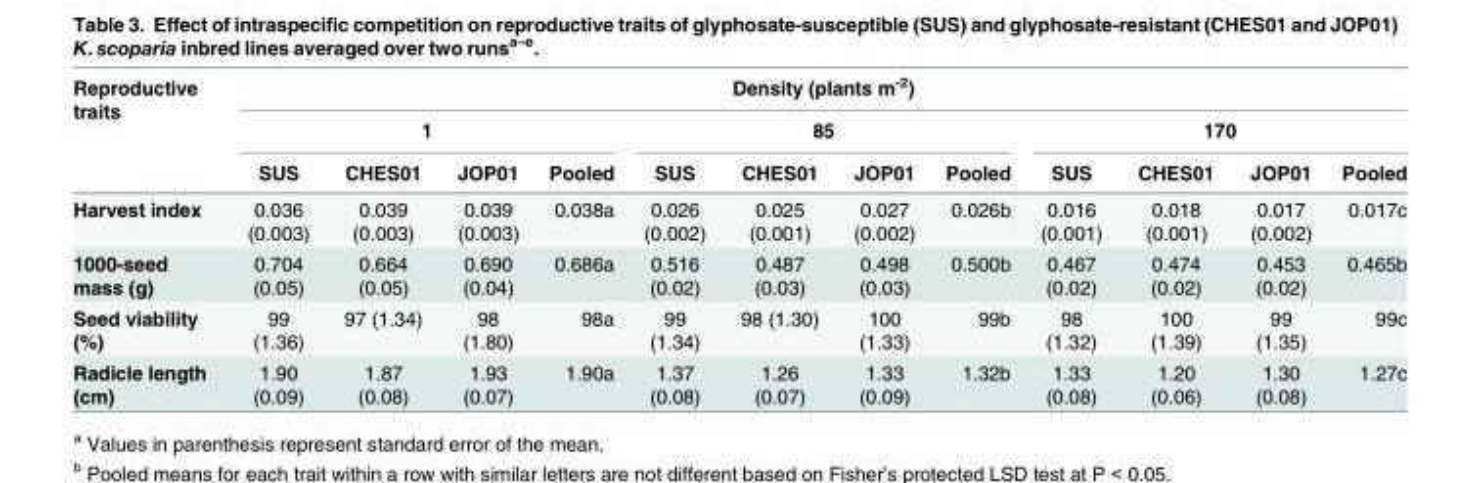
<table><thead><tr><td rowspan="3">Reproductive traits</td><td colspan="12">Density (plants m<sup>-2</sup>)</td></tr><tr><td colspan="4">1</td><td colspan="4">85</td><td colspan="4">170</td></tr><tr><td>SUS</td><td>CHES01</td><td>JOP01</td><td>Pooled</td><td>SUS</td><td>CHES01</td><td>JOP01</td><td>Pooled</td><td>SUS</td><td>CHES01</td><td>JOP01</td><td>Pooled</td></tr></thead><tbody><tr><td>Harvest index</td><td>0.036 (0.003)</td><td>0.039 (0.003)</td><td>0.039 (0.003)</td><td>0.038a</td><td>0.026 (0.002)</td><td>0.025 (0.001)</td><td>0.027 (0.002)</td><td>0.026b</td><td>0.016 (0.001)</td><td>0.018 (0.001)</td><td>0.017 (0.002)</td><td>0.017c</td></tr><tr><td>1000-seed mass (g)</td><td>0.704 (0.05)</td><td>0.664 (0.05)</td><td>0.690 (0.04)</td><td>0.686a</td><td>0.516 (0.02)</td><td>0.487 (0.03)</td><td>0.498 (0.03)</td><td>0.500b</td><td>0.467 (0.02)</td><td>0.474 (0.02)</td><td>0.453 (0.02)</td><td>0.465b</td></tr><tr><td>Seed viability (%)</td><td>99 (1.36)</td><td>97 (1.34)</td><td>98 (1.80)</td><td>98a</td><td>99 (1.34)</td><td>98 (1.30)</td><td>100 (1.33)</td><td>99b</td><td>98 (1.32)</td><td>100 (1.39)</td><td>99 (1.35)</td><td>99c</td></tr><tr><td>Radicle length (cm)</td><td>1.90 (0.09)</td><td>1.87 (0.08)</td><td>1.93 (0.07)</td><td>1.90a</td><td>1.37 (0.08)</td><td>1.26 (0.07)</td><td>1.33 (0.09)</td><td>1.32b</td><td>1.33 (0.08)</td><td>1.20 (0.06)</td><td>1.30 (0.08)</td><td>1.27c</td></tr></tbody></table>